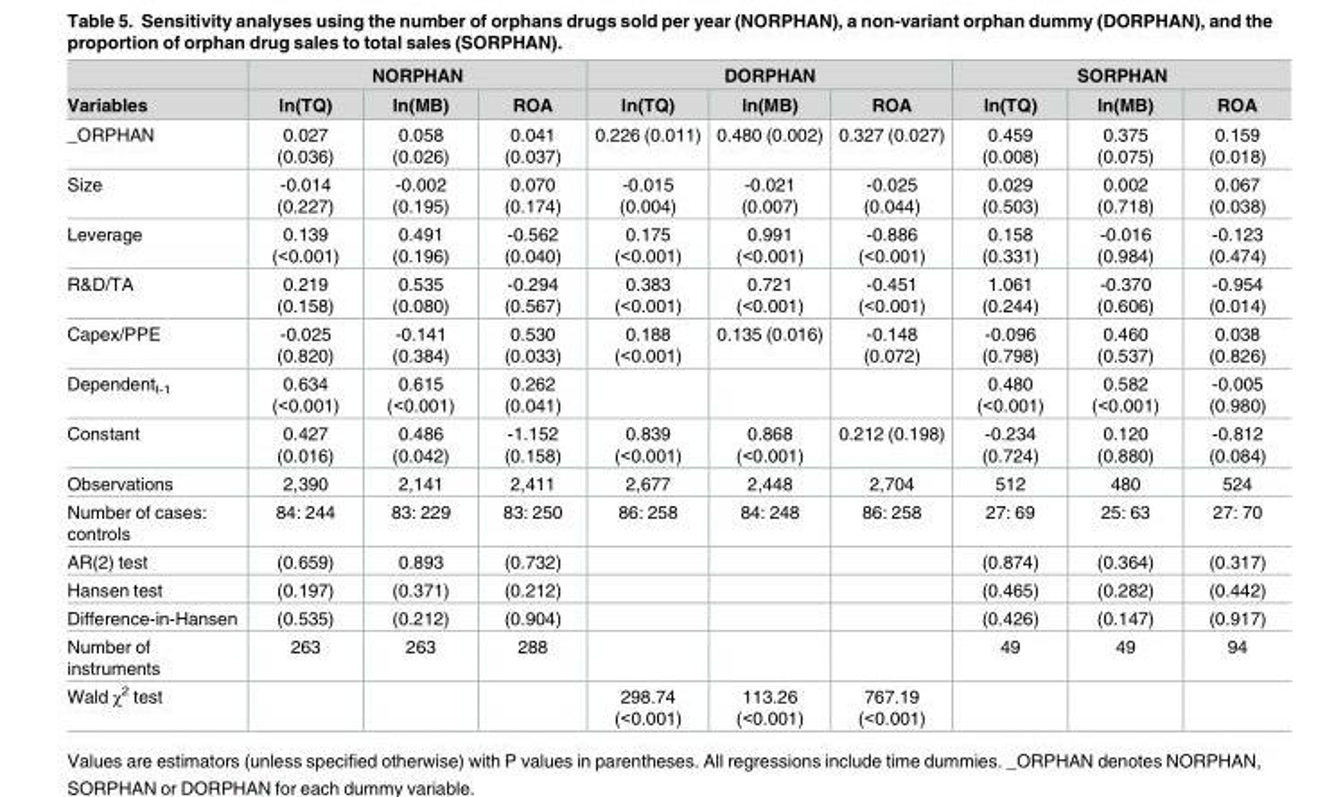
<table><thead><tr><td rowspan="2">Variables</td><td colspan="3">NORPHAN</td><td colspan="3">DORPHAN</td><td colspan="3">SORPHAN</td></tr><tr><td>ln(TQ)</td><td>ln(MB)</td><td>ROA</td><td>ln(TQ)</td><td>ln(MB)</td><td>ROA</td><td>ln(TQ)</td><td>ln(MB)</td><td>ROA</td></tr></thead><tbody><tr><td>_ORPHAN</td><td>0.027 (0.036)</td><td>0.058 (0.026)</td><td>0.041 (0.037)</td><td>0.226 (0.011)</td><td>0.480 (0.002)</td><td>0.327 (0.027)</td><td>0.459 (0.008)</td><td>0.375 (0.075)</td><td>0.159 (0.018)</td></tr><tr><td>Size</td><td>-0.014 (0.227)</td><td>-0.002 (0.195)</td><td>0.070 (0.174)</td><td>-0.015 (0.004)</td><td>-0.021 (0.007)</td><td>-0.025 (0.044)</td><td>0.029 (0.503)</td><td>0.002 (0.718)</td><td>0.067 (0.038)</td></tr><tr><td>Leverage</td><td>0.139 (&lt;0.001)</td><td>0.491 (0.196)</td><td>-0.562 (0.040)</td><td>0.175 (&lt;0.001)</td><td>0.991 (&lt;0.001)</td><td>-0.886 (&lt;0.001)</td><td>0.158 (0.331)</td><td>-0.016 (0.984)</td><td>-0.123 (0.474)</td></tr><tr><td>R&amp;D/TA</td><td>0.219 (0.158)</td><td>0.535 (0.080)</td><td>-0.294 (0.567)</td><td>0.383 (&lt;0.001)</td><td>0.721 (&lt;0.001)</td><td>-0.451 (&lt;0.001)</td><td>1.061 (0.244)</td><td>-0.370 (0.606)</td><td>-0.954 (0.014)</td></tr><tr><td>Capex/PPE</td><td>-0.025 (0.820)</td><td>-0.141 (0.384)</td><td>0.530 (0.033)</td><td>0.188 (&lt;0.001)</td><td>0.135 (0.016)</td><td>-0.148 (0.072)</td><td>-0.096 (0.798)</td><td>0.460 (0.537)</td><td>0.038 (0.826)</td></tr><tr><td>Dependent<sub>t-1</sub></td><td>0.634 (&lt;0.001)</td><td>0.615 (&lt;0.001)</td><td>0.262 (0.041)</td><td></td><td></td><td></td><td>0.480 (&lt;0.001)</td><td>0.582 (&lt;0.001)</td><td>-0.005 (0.980)</td></tr><tr><td>Constant</td><td>0.427 (0.016)</td><td>0.486 (0.042)</td><td>-1.152 (0.158)</td><td>0.839 (&lt;0.001)</td><td>0.868 (&lt;0.001)</td><td>0.212 (0.198)</td><td>-0.234 (0.724)</td><td>0.120 (0.880)</td><td>-0.812 (0.084)</td></tr><tr><td>Observations</td><td>2,390</td><td>2,141</td><td>2,411</td><td>2,677</td><td>2,448</td><td>2,704</td><td>512</td><td>480</td><td>524</td></tr><tr><td>Number of cases: controls</td><td>84: 244</td><td>83: 229</td><td>83: 250</td><td>86: 258</td><td>84: 248</td><td>86: 258</td><td>27: 69</td><td>25: 63</td><td>27: 70</td></tr><tr><td>AR(2) test</td><td>(0.659)</td><td>0.893</td><td>(0.732)</td><td></td><td></td><td></td><td>(0.874)</td><td>(0.364)</td><td>(0.317)</td></tr><tr><td>Hansen test</td><td>(0.197)</td><td>(0.371)</td><td>(0.212)</td><td></td><td></td><td></td><td>(0.465)</td><td>(0.282)</td><td>(0.442)</td></tr><tr><td>Difference-in-Hansen</td><td>(0.535)</td><td>(0.212)</td><td>(0.904)</td><td></td><td></td><td></td><td>(0.426)</td><td>(0.147)</td><td>(0.917)</td></tr><tr><td>Number of instruments</td><td>263</td><td>263</td><td>288</td><td></td><td></td><td></td><td>49</td><td>49</td><td>94</td></tr><tr><td>Wald χ<sup>2</sup> test</td><td></td><td></td><td></td><td>298.74 (&lt;0.001)</td><td>113.26 (&lt;0.001)</td><td>767.19 (&lt;0.001)</td><td></td><td></td><td></td></tr></tbody></table>